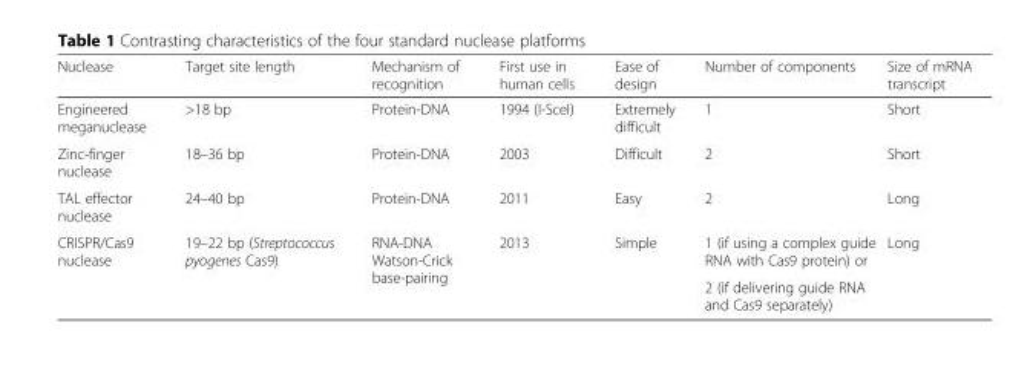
<table><thead><tr><td>Nuclease</td><td>Target site length</td><td>Mechanism of recognition</td><td>First use in human cells</td><td>Ease of design</td><td>Number of components</td><td>Size of mRNA transcript</td></tr></thead><tbody><tr><td>Engineered meganuclease</td><td>&gt;18 bp</td><td>Protein-DNA</td><td>1994 (I-SceI)</td><td>Extremely difficult</td><td>1</td><td>Short</td></tr><tr><td>Zinc-finger nuclease</td><td>18–36 bp</td><td>Protein-DNA</td><td>2003</td><td>Difficult</td><td>2</td><td>Short</td></tr><tr><td>TAL effector nuclease</td><td>24–40 bp</td><td>Protein-DNA</td><td>2011</td><td>Easy</td><td>2</td><td>Long</td></tr><tr><td rowspan="2">CRISPR/Cas9 nuclease</td><td rowspan="2">19–22 bp (Streptococcus pyogenes Cas9)</td><td rowspan="2">RNA-DNA Watson-Crick base-pairing</td><td rowspan="2">2013</td><td rowspan="2">Simple</td><td>1 (if using a complex guide RNA with Cas9 protein) or</td><td rowspan="2">Long</td></tr><tr><td>2 (if delivering guide RNA and Cas9 separately)</td></tr></tbody></table>